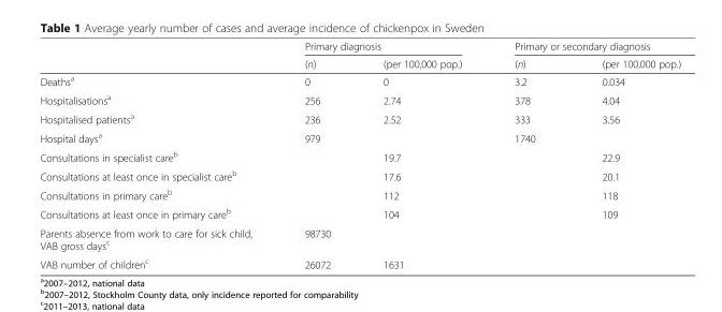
<table><thead><tr><td rowspan="2"></td><td colspan="2">Primary diagnosis</td><td colspan="2">Primary or secondary diagnosis</td></tr><tr><td>(n)</td><td>(per 100,000 pop.)</td><td>(n)</td><td>(per 100,000 pop.)</td></tr></thead><tbody><tr><td>Deaths<sup>a</sup></td><td>0</td><td>0</td><td>3.2</td><td>0.034</td></tr><tr><td>Hospitalisations<sup>a</sup></td><td>256</td><td>2.74</td><td>378</td><td>4.04</td></tr><tr><td>Hospitalised patients<sup>a</sup></td><td>236</td><td>2.52</td><td>333</td><td>3.56</td></tr><tr><td>Hospital days<sup>a</sup></td><td>979</td><td></td><td>1740</td><td></td></tr><tr><td>Consultations in specialist care<sup>b</sup></td><td></td><td>19.7</td><td></td><td>22.9</td></tr><tr><td>Consultations at least once in specialist care<sup>b</sup></td><td></td><td>17.6</td><td></td><td>20.1</td></tr><tr><td>Consultations in primary care<sup>b</sup></td><td></td><td>112</td><td></td><td>118</td></tr><tr><td>Consultations at least once in primary care<sup>b</sup></td><td></td><td>104</td><td></td><td>109</td></tr><tr><td>Parents absence from work to care for sick child, VAB gross days<sup>c</sup></td><td>98730</td><td></td><td></td><td></td></tr><tr><td>VAB number of children<sup>c</sup></td><td>26072</td><td>1631</td><td></td><td></td></tr></tbody></table>